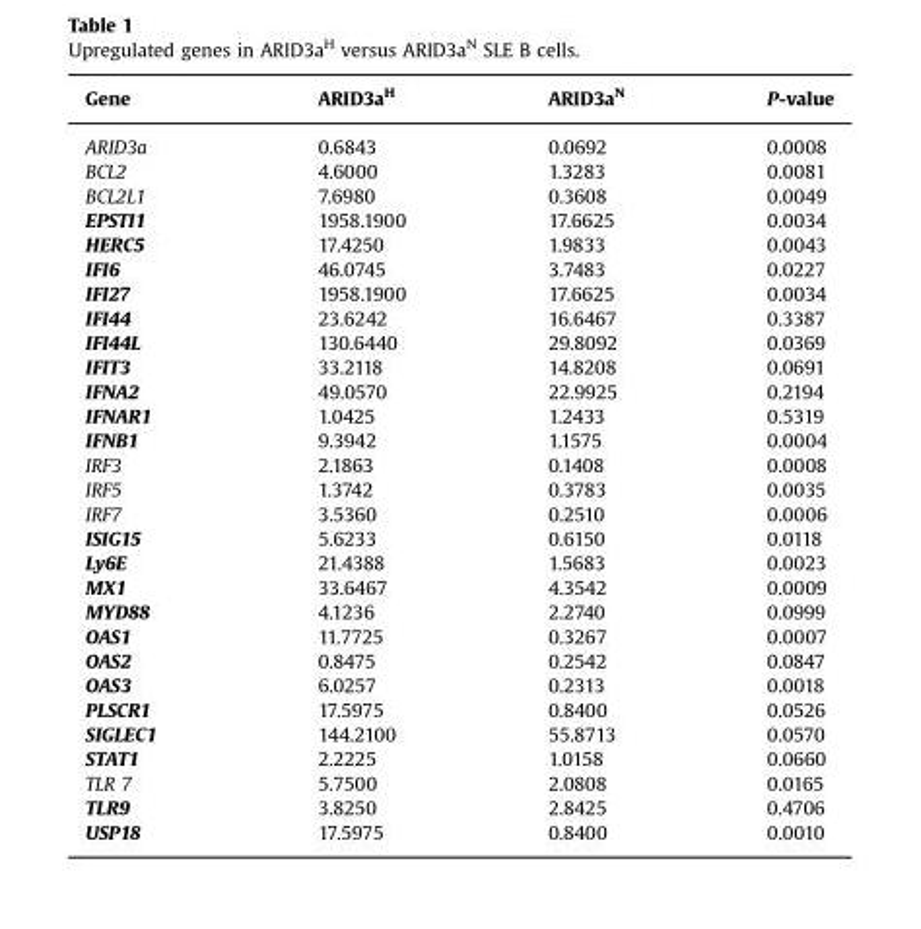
<table><thead><tr><td>Gene</td><td>ARID3a<sup>H</sup></td><td>ARID3a<sup>N</sup></td><td>P-value</td></tr></thead><tbody><tr><td>ARID3a</td><td>0.6843</td><td>0.0692</td><td>0.0008</td></tr><tr><td>BCL2</td><td>4.6000</td><td>1.3283</td><td>0.0081</td></tr><tr><td>BCL2L1</td><td>7.6980</td><td>0.3608</td><td>0.0049</td></tr><tr><td>EPSTI1</td><td>1958.1900</td><td>17.6625</td><td>0.0034</td></tr><tr><td>HERC5</td><td>17.4250</td><td>1.9833</td><td>0.0043</td></tr><tr><td>IFI6</td><td>46.0745</td><td>3.7483</td><td>0.0227</td></tr><tr><td>IFI27</td><td>1958.1900</td><td>17.6625</td><td>0.0034</td></tr><tr><td>IFI44</td><td>23.6242</td><td>16.6467</td><td>0.3387</td></tr><tr><td>IFI44L</td><td>130.6440</td><td>29.8092</td><td>0.0369</td></tr><tr><td>IFIT3</td><td>33.2118</td><td>14.8208</td><td>0.0691</td></tr><tr><td>IFNA2</td><td>49.0570</td><td>22.9925</td><td>0.2194</td></tr><tr><td>IFNAR1</td><td>1.0425</td><td>1.2433</td><td>0.5319</td></tr><tr><td>IFNB1</td><td>9.3942</td><td>1.1575</td><td>0.0004</td></tr><tr><td>IRF3</td><td>2.1863</td><td>0.1408</td><td>0.0008</td></tr><tr><td>IRF5</td><td>1.3742</td><td>0.3783</td><td>0.0035</td></tr><tr><td>IRF7</td><td>3.5360</td><td>0.2510</td><td>0.0006</td></tr><tr><td>ISIG15</td><td>5.6233</td><td>0.6150</td><td>0.0118</td></tr><tr><td>Ly6E</td><td>21.4388</td><td>1.5683</td><td>0.0023</td></tr><tr><td>MX1</td><td>33.6467</td><td>4.3542</td><td>0.0009</td></tr><tr><td>MYD88</td><td>4.1236</td><td>2.2740</td><td>0.0999</td></tr><tr><td>OAS1</td><td>11.7725</td><td>0.3267</td><td>0.0007</td></tr><tr><td>OAS2</td><td>0.8475</td><td>0.2542</td><td>0.0847</td></tr><tr><td>OAS3</td><td>6.0257</td><td>0.2313</td><td>0.0018</td></tr><tr><td>PLSCR1</td><td>17.5975</td><td>0.8400</td><td>0.0526</td></tr><tr><td>SIGLEC1</td><td>144.2100</td><td>55.8713</td><td>0.0570</td></tr><tr><td>STAT1</td><td>2.2225</td><td>1.0158</td><td>0.0660</td></tr><tr><td>TLR 7</td><td>5.7500</td><td>2.0808</td><td>0.0165</td></tr><tr><td>TLR9</td><td>3.8250</td><td>2.8425</td><td>0.4706</td></tr><tr><td>USP18</td><td>17.5975</td><td>0.8400</td><td>0.0010</td></tr></tbody></table>